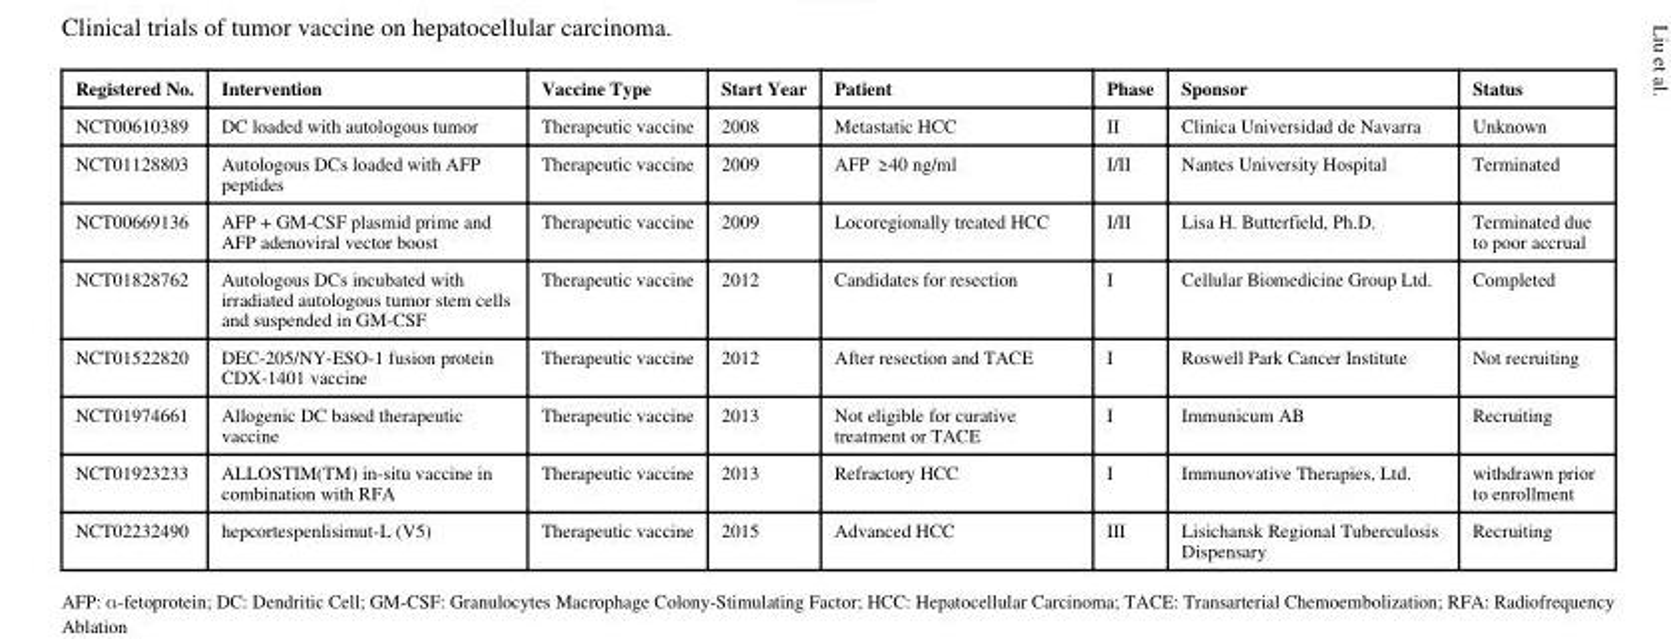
<table><thead><tr><td>Registered No.</td><td>Intervention</td><td>Vaccine Type</td><td>Start Year</td><td>Patient</td><td>Phase</td><td>Sponsor</td><td>Status</td></tr></thead><tbody><tr><td>NCT00610389</td><td>DC loaded with autologous tumor</td><td>Therapeutic vaccine</td><td>2008</td><td>Metastatic HCC</td><td>II</td><td>Clinica Universidad de Navarra</td><td>Unknown</td></tr><tr><td>NCT01128803</td><td>Autologous DCs loaded with AFP peptides</td><td>Therapeutic vaccine</td><td>2009</td><td>AFP ≥ 40 ng/ml</td><td>I/II</td><td>Nantes University Hospital</td><td>Terminated</td></tr><tr><td>NCT00669136</td><td>AFP + GM-CSF plasmid prime and AFP adenoviral vector boost</td><td>Therapeutic vaccine</td><td>2009</td><td>Locoregionally treated HCC</td><td>I/II</td><td>Lisa H. Butterfield, Ph.D.</td><td>Terminated due to poor accrual</td></tr><tr><td>NCT01828762</td><td>Autologous DCs incubated with irradiated autologous tumor stem cells and suspended in GM-CSF</td><td>Therapeutic vaccine</td><td>2012</td><td>Candidates for resection</td><td>I</td><td>Cellular Biomedicine Group Ltd.</td><td>Completed</td></tr><tr><td>NCT01522820</td><td>DEC-205/NY-ESO-1 fusion protein CDX-1401 vaccine</td><td>Therapeutic vaccine</td><td>2012</td><td>After resection and TACE</td><td>I</td><td>Roswell Park Cancer Institute</td><td>Not recruiting</td></tr><tr><td>NCT01974661</td><td>Allogenic DC based therapeutic vaccine</td><td>Therapeutic vaccine</td><td>2013</td><td>Not eligible for curative treatment or TACE</td><td>I</td><td>Immunicum AB</td><td>Recruiting</td></tr><tr><td>NCT01923233</td><td>ALLOSTIM(TM) in-situ vaccine in combination with RFA</td><td>Therapeutic vaccine</td><td>2013</td><td>Refractory HCC</td><td>I</td><td>Immunovative Therapies, Ltd.</td><td>withdrawn prior to enrollment</td></tr><tr><td>NCT02232490</td><td>hepcortespenlisimut-L (V5)</td><td>Therapeutic vaccine</td><td>2015</td><td>Advanced HCC</td><td>III</td><td>Lisichansk Regional Tuberculosis Dispensary</td><td>Recruiting</td></tr></tbody></table>